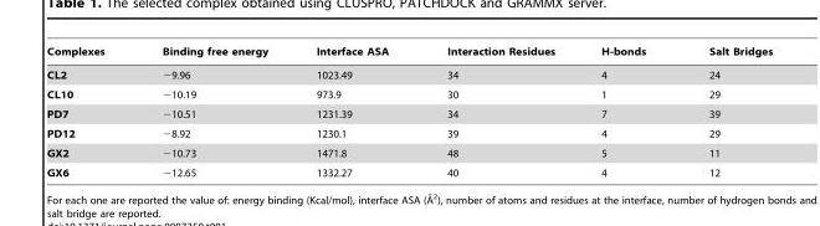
<table><thead><tr><td>Complexes</td><td>Binding free energy</td><td>Interface ASA</td><td>Interaction Residues</td><td>H-bonds</td><td>Salt Bridges</td></tr></thead><tbody><tr><td>CL2</td><td>−9.96</td><td>1023.49</td><td>34</td><td>4</td><td>24</td></tr><tr><td>CL10</td><td>−10.19</td><td>973.9</td><td>30</td><td>1</td><td>29</td></tr><tr><td>PD7</td><td>−10.51</td><td>1231.39</td><td>34</td><td>7</td><td>39</td></tr><tr><td>PD12</td><td>−8.92</td><td>1230.1</td><td>39</td><td>4</td><td>29</td></tr><tr><td>GX2</td><td>−10.73</td><td>1471.8</td><td>48</td><td>5</td><td>11</td></tr><tr><td>GX6</td><td>−12.65</td><td>1332.27</td><td>40</td><td>4</td><td>12</td></tr></tbody></table>